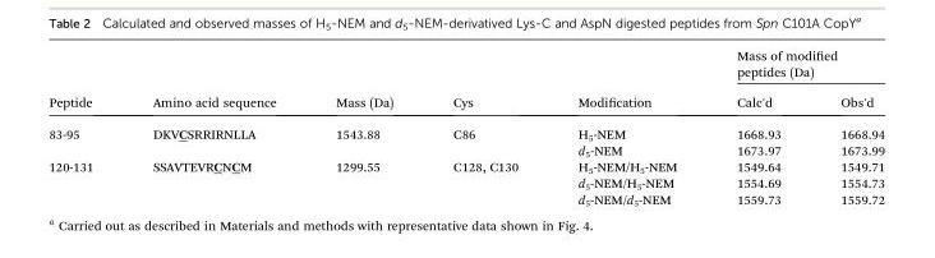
<table><thead><tr><td rowspan="2">Peptide</td><td rowspan="2">Amino acid sequence</td><td rowspan="2">Mass (Da)</td><td rowspan="2">Cys</td><td rowspan="2">Modication</td><td colspan="2">Mass of modied peptides (Da)</td></tr><tr><td>Calc&#x27;d</td><td>Obs&#x27;d</td></tr></thead><tbody><tr><td rowspan="2">83-95</td><td rowspan="2">DKVCSRRIRNLLA</td><td rowspan="2">1543.88</td><td rowspan="2">C86</td><td>H<sub>5</sub>-NEM</td><td>1668.93</td><td>1668.94</td></tr><tr><td>d<sub>5</sub>-NEM</td><td>1673.97</td><td>1673.99</td></tr><tr><td rowspan="3">120-131</td><td rowspan="3">SSAVTEVRCNCM</td><td rowspan="3">1299.55</td><td rowspan="3">C128, C130</td><td>H<sub>5</sub>-NEM/H<sub>5</sub>-NEM</td><td>1549.64</td><td>1549.71</td></tr><tr><td>d<sub>5</sub>-NEM/H<sub>5</sub>-NEM</td><td>1554.69</td><td>1554.73</td></tr><tr><td>d<sub>5</sub>-NEM/d<sub>5</sub>-NEM</td><td>1559.73</td><td>1559.72</td></tr></tbody></table>